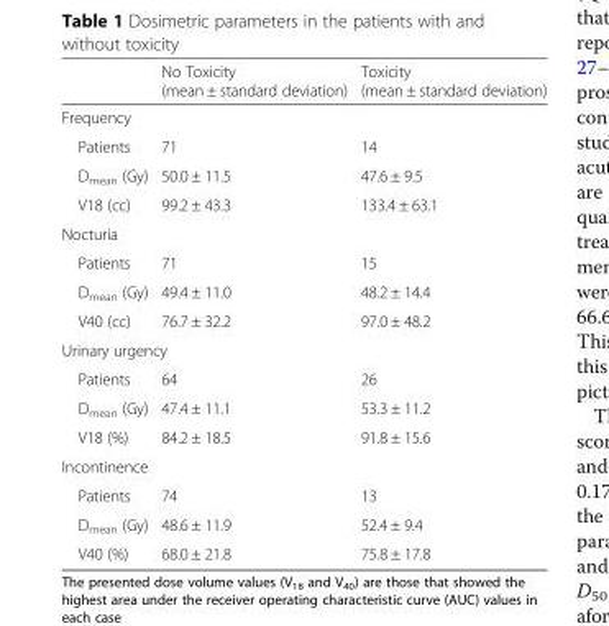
<table><thead><tr><td></td><td>No Toxicity (mean ± standard deviation)</td><td>Toxicity (mean ± standard deviation)</td></tr></thead><tbody><tr><td colspan="3">Frequency</td></tr><tr><td>Patients</td><td>71</td><td>14</td></tr><tr><td>D<sub>mean</sub> (Gy)</td><td>50.0 ± 11.5</td><td>47.6 ± 9.5</td></tr><tr><td>V18 (cc)</td><td>99.2 ± 43.3</td><td>133.4 ± 63.1</td></tr><tr><td colspan="3">Nocturia</td></tr><tr><td>Patients</td><td>71</td><td>15</td></tr><tr><td>D<sub>mean</sub> (Gy)</td><td>49.4 ± 11.0</td><td>48.2 ± 14.4</td></tr><tr><td>V40 (cc)</td><td>76.7 ± 32.2</td><td>97.0 ± 48.2</td></tr><tr><td colspan="3">Urinary urgency</td></tr><tr><td>Patients</td><td>64</td><td>26</td></tr><tr><td>D<sub>mean</sub> (Gy)</td><td>47.4 ± 11.1</td><td>53.3 ± 11.2</td></tr><tr><td>V18 (%)</td><td>84.2 ± 18.5</td><td>91.8 ± 15.6</td></tr><tr><td colspan="3">Incontinence</td></tr><tr><td>Patients</td><td>74</td><td>13</td></tr><tr><td>D<sub>mean</sub> (Gy)</td><td>48.6 ± 11.9</td><td>52.4 ± 9.4</td></tr><tr><td>V40 (%)</td><td>68.0 ± 21.8</td><td>75.8 ± 17.8</td></tr></tbody></table>